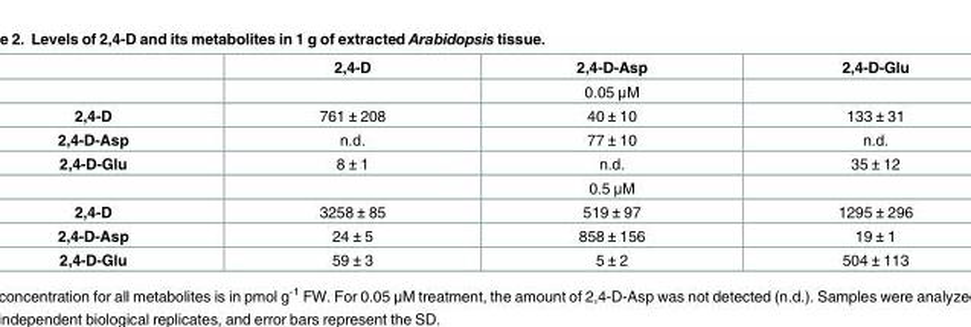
<table><thead><tr><td></td><td>2,4-D</td><td>2,4-D-Asp</td><td>2,4-D-Glu</td></tr></thead><tbody><tr><td></td><td></td><td>0.05 μM</td><td></td></tr><tr><td>2,4-D</td><td>761 ± 208</td><td>40 ± 10</td><td>133 ± 31</td></tr><tr><td>2,4-D-Asp</td><td>n.d.</td><td>77 ± 10</td><td>n.d.</td></tr><tr><td rowspan="2">2,4-D-Glu</td><td>8 ± 1</td><td>n.d.</td><td>35 ± 12</td></tr><tr><td></td><td>0.5 μM</td><td></td></tr><tr><td>2,4-D</td><td>3258 ± 85</td><td>519 ± 97</td><td>1295 ± 296</td></tr><tr><td>2,4-D-Asp</td><td>24 ± 5</td><td>858 ± 156</td><td>19 ± 1</td></tr><tr><td>2,4-D-Glu</td><td>59 ± 3</td><td>5 ± 2</td><td>504 ± 113</td></tr></tbody></table>